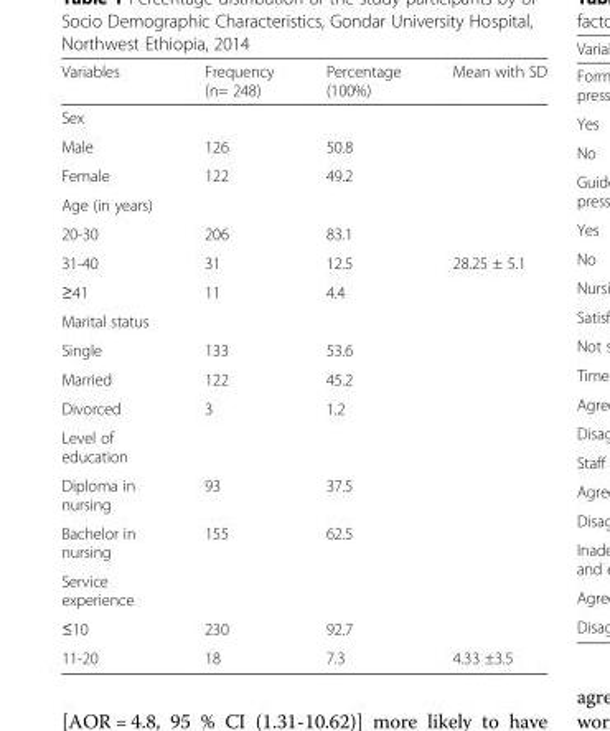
<table><thead><tr><td>Variables</td><td>Frequency (n= 248)</td><td>Percentage (100%)</td><td>Mean with SD</td></tr></thead><tbody><tr><td colspan="4">Sex</td></tr><tr><td>Male</td><td>126</td><td>50.8</td><td></td></tr><tr><td>Female</td><td>122</td><td>49.2</td><td></td></tr><tr><td colspan="4">Age (in years)</td></tr><tr><td>20-30</td><td>206</td><td>83.1</td><td></td></tr><tr><td>31-40</td><td>31</td><td>12.5</td><td>28.25 ± 5.1</td></tr><tr><td>≥41</td><td>11</td><td>4.4</td><td></td></tr><tr><td colspan="4">Marital status</td></tr><tr><td>Single</td><td>133</td><td>53.6</td><td></td></tr><tr><td>Married</td><td>122</td><td>45.2</td><td></td></tr><tr><td>Divorced</td><td>3</td><td>1.2</td><td></td></tr><tr><td colspan="4">Level of education</td></tr><tr><td>Diploma in nursing</td><td>93</td><td>37.5</td><td></td></tr><tr><td>Bachelor in nursing</td><td>155</td><td>62.5</td><td></td></tr><tr><td colspan="4">Service experience</td></tr><tr><td>≤10</td><td>230</td><td>92.7</td><td></td></tr><tr><td>11-20</td><td>18</td><td>7.3</td><td>4.33 ±3.5</td></tr></tbody></table>